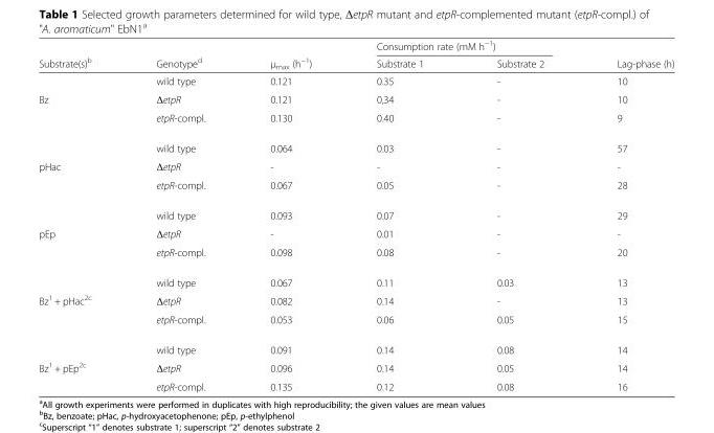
<table><thead><tr><td rowspan="2">Substrate(s)<sup>b</sup></td><td rowspan="2">Genotype<sup>d</sup></td><td rowspan="2">μ<sub>max</sub> (h<sup>−1</sup>)</td><td colspan="2">Consumption rate (mM h<sup>−1</sup>)</td><td rowspan="2">Lag-phase (h)</td></tr><tr><td>Substrate 1</td><td>Substrate 2</td></tr></thead><tbody><tr><td></td><td>wild type</td><td>0.121</td><td>0.35</td><td>-</td><td>10</td></tr><tr><td rowspan="3">Bz</td><td>ΔetpR</td><td>0.121</td><td>0,34</td><td>-</td><td>10</td></tr><tr><td>etpR-compl.</td><td>0.130</td><td>0.40</td><td>-</td><td>9</td></tr><tr><td>wild type</td><td>0.064</td><td>0.03</td><td>-</td><td>57</td></tr><tr><td rowspan="3">pHac</td><td>ΔetpR</td><td>-</td><td>-</td><td>-</td><td>-</td></tr><tr><td>etpR-compl.</td><td>0.067</td><td>0.05</td><td>-</td><td>28</td></tr><tr><td>wild type</td><td>0.093</td><td>0.07</td><td>-</td><td>29</td></tr><tr><td rowspan="3">pEp</td><td>ΔetpR</td><td>-</td><td>0.01</td><td>-</td><td>-</td></tr><tr><td>etpR-compl.</td><td>0.098</td><td>0.08</td><td>-</td><td>20</td></tr><tr><td>wild type</td><td>0.067</td><td>0.11</td><td>0.03</td><td>13</td></tr><tr><td rowspan="3">Bz<sup>1</sup> + pHac<sup>2c</sup></td><td>ΔetpR</td><td>0.082</td><td>0.14</td><td>-</td><td>13</td></tr><tr><td>etpR-compl.</td><td>0.053</td><td>0.06</td><td>0.05</td><td>15</td></tr><tr><td>wild type</td><td>0.091</td><td>0.14</td><td>0.08</td><td>14</td></tr><tr><td rowspan="2">Bz<sup>1</sup> + pEp<sup>2c</sup></td><td>ΔetpR</td><td>0.096</td><td>0.14</td><td>0.05</td><td>14</td></tr><tr><td>etpR-compl.</td><td>0.135</td><td>0.12</td><td>0.08</td><td>16</td></tr></tbody></table>